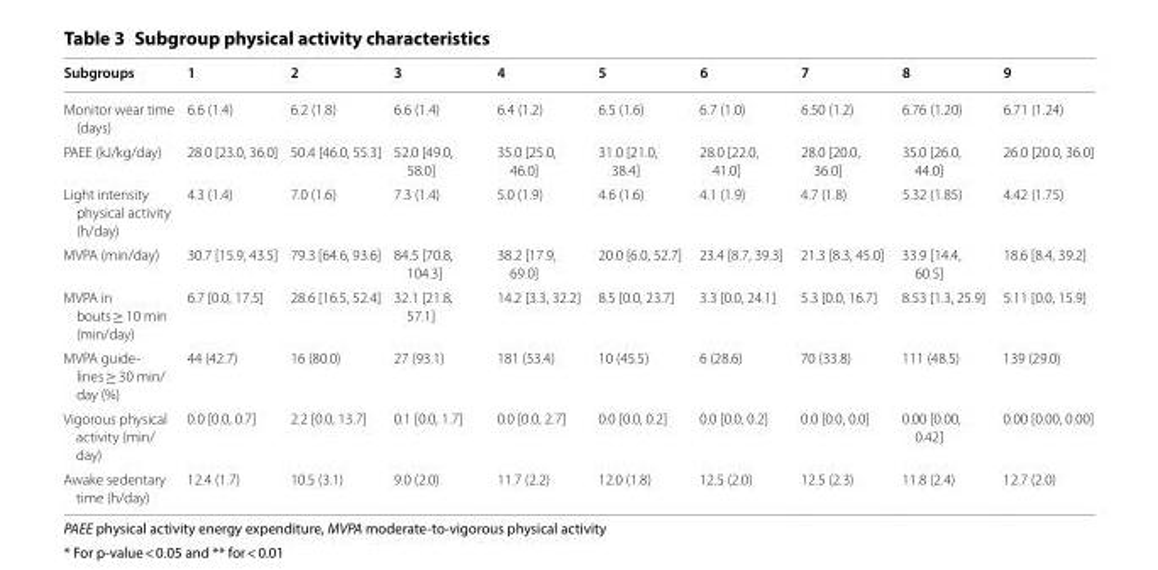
<table><thead><tr><td>Subgroups</td><td>1</td><td>2</td><td>3</td><td>4</td><td>5</td><td>6</td><td>7</td><td>8</td><td>9</td></tr></thead><tbody><tr><td>Monitor wear time (days)</td><td>6.6 (1.4)</td><td>6.2 (1.8)</td><td>6.6 (1.4)</td><td>6.4 (1.2)</td><td>6.5 (1.6)</td><td>6.7 (1.0)</td><td>6.50 (1.2)</td><td>6.76 (1.20)</td><td>6.71 (1.24)</td></tr><tr><td>PAEE (kJ/kg/day)</td><td>28.0 [23.0, 36.0]</td><td>50.4 [46.0, 55.3]</td><td>52.0 [49.0, 58.0]</td><td>35.0 [25.0, 46.0]</td><td>31.0 [21.0, 38.4]</td><td>28.0 [22.0, 41.0]</td><td>28.0 [20.0, 36.0]</td><td>35.0 [26.0, 44.0]</td><td>26.0 [20.0, 36.0]</td></tr><tr><td>Light intensity physical activity (h/day)</td><td>4.3 (1.4)</td><td>7.0 (1.6)</td><td>7.3 (1.4)</td><td>5.0 (1.9)</td><td>4.6 (1.6)</td><td>4.1 (1.9)</td><td>4.7 (1.8)</td><td>5.32 (1.85)</td><td>4.42 (1.75)</td></tr><tr><td>MVPA (min/day)</td><td>30.7 [15.9, 43.5]</td><td>79.3 [64.6, 93.6]</td><td>84.5 [70.8, 104.3]</td><td>38.2 [17.9, 69.0]</td><td>20.0 [6.0, 52.7]</td><td>23.4 [8.7, 39.3]</td><td>21.3 [8.3, 45.0]</td><td>33.9 [14.4, 60.5]</td><td>18.6 [8.4, 39.2]</td></tr><tr><td>MVPA in bouts ≥ 10 min (min/day)</td><td>6.7 [0.0, 17.5]</td><td>28.6 [16.5, 52.4]</td><td>32.1 [21.8, 57.1]</td><td>14.2 [3.3, 32.2]</td><td>8.5 [0.0, 23.7]</td><td>3.3 [0.0, 24.1]</td><td>5.3 [0.0, 16.7]</td><td>8.53 [1.3, 25.9]</td><td>5.11 [0.0, 15.9]</td></tr><tr><td>MVPA guide‑ lines ≥ 30 min/ day (%)</td><td>44 (42.7)</td><td>16 (80.0)</td><td>27 (93.1)</td><td>181 (53.4)</td><td>10 (45.5)</td><td>6 (28.6)</td><td>70 (33.8)</td><td>111 (48.5)</td><td>139 (29.0)</td></tr><tr><td>Vigorous physical activity (min/ day)</td><td>0.0 [0.0, 0.7]</td><td>2.2 [0.0, 13.7]</td><td>0.1 [0.0, 1.7]</td><td>0.0 [0.0, 2.7]</td><td>0.0 [0.0, 0.2]</td><td>0.0 [0.0, 0.2]</td><td>0.0 [0.0, 0.0]</td><td>0.00 [0.00, 0.42]</td><td>0.00 [0.00, 0.00]</td></tr><tr><td>Awake sedentary time (h/day)</td><td>12.4 (1.7)</td><td>10.5 (3.1)</td><td>9.0 (2.0)</td><td>11.7 (2.2)</td><td>12.0 (1.8)</td><td>12.5 (2.0)</td><td>12.5 (2.3)</td><td>11.8 (2.4)</td><td>12.7 (2.0)</td></tr></tbody></table>